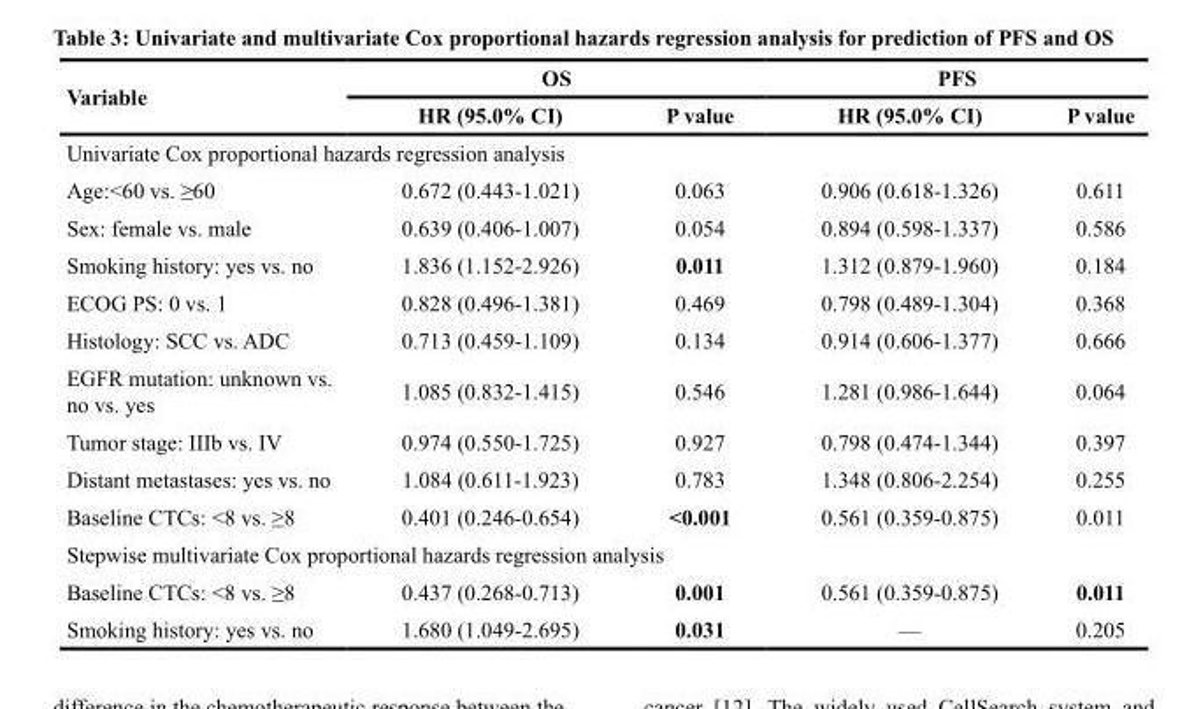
<table><thead><tr><td rowspan="2">Variable</td><td colspan="2">OS</td><td colspan="2">PFS</td></tr><tr><td>HR (95.0% CI)</td><td>P value</td><td>HR (95.0% CI)</td><td>P value</td></tr></thead><tbody><tr><td colspan="5">Univariate Cox proportional hazards regression analysis</td></tr><tr><td>Age:&lt;60 vs. ≥60</td><td>0.672 (0.443-1.021)</td><td>0.063</td><td>0.906 (0.618-1.326)</td><td>0.611</td></tr><tr><td>Sex: female vs. male</td><td>0.639 (0.406-1.007)</td><td>0.054</td><td>0.894 (0.598-1.337)</td><td>0.586</td></tr><tr><td>Smoking history: yes vs. no</td><td>1.836 (1.152-2.926)</td><td>0.011</td><td>1.312 (0.879-1.960)</td><td>0.184</td></tr><tr><td>ECOG PS: 0 vs. 1</td><td>0.828 (0.496-1.381)</td><td>0.469</td><td>0.798 (0.489-1.304)</td><td>0.368</td></tr><tr><td>Histology: SCC vs. ADC</td><td>0.713 (0.459-1.109)</td><td>0.134</td><td>0.914 (0.606-1.377)</td><td>0.666</td></tr><tr><td>EGFR mutation: unknown vs. no vs. yes</td><td>1.085 (0.832-1.415)</td><td>0.546</td><td>1.281 (0.986-1.644)</td><td>0.064</td></tr><tr><td>Tumor stage: IIIb vs. IV</td><td>0.974 (0.550-1.725)</td><td>0.927</td><td>0.798 (0.474-1.344)</td><td>0.397</td></tr><tr><td>Distant metastases: yes vs. no</td><td>1.084 (0.611-1.923)</td><td>0.783</td><td>1.348 (0.806-2.254)</td><td>0.255</td></tr><tr><td>Baseline CTCs: &lt;8 vs. ≥8</td><td>0.401 (0.246-0.654)</td><td>&lt;0.001</td><td>0.561 (0.359-0.875)</td><td>0.011</td></tr><tr><td colspan="5">Stepwise multivariate Cox proportional hazards regression analysis</td></tr><tr><td>Baseline CTCs: &lt;8 vs. ≥8</td><td>0.437 (0.268-0.713)</td><td>0.001</td><td>0.561 (0.359-0.875)</td><td>0.011</td></tr><tr><td>Smoking history: yes vs. no</td><td>1.680 (1.049-2.695)</td><td>0.031</td><td>—</td><td>0.205</td></tr></tbody></table>